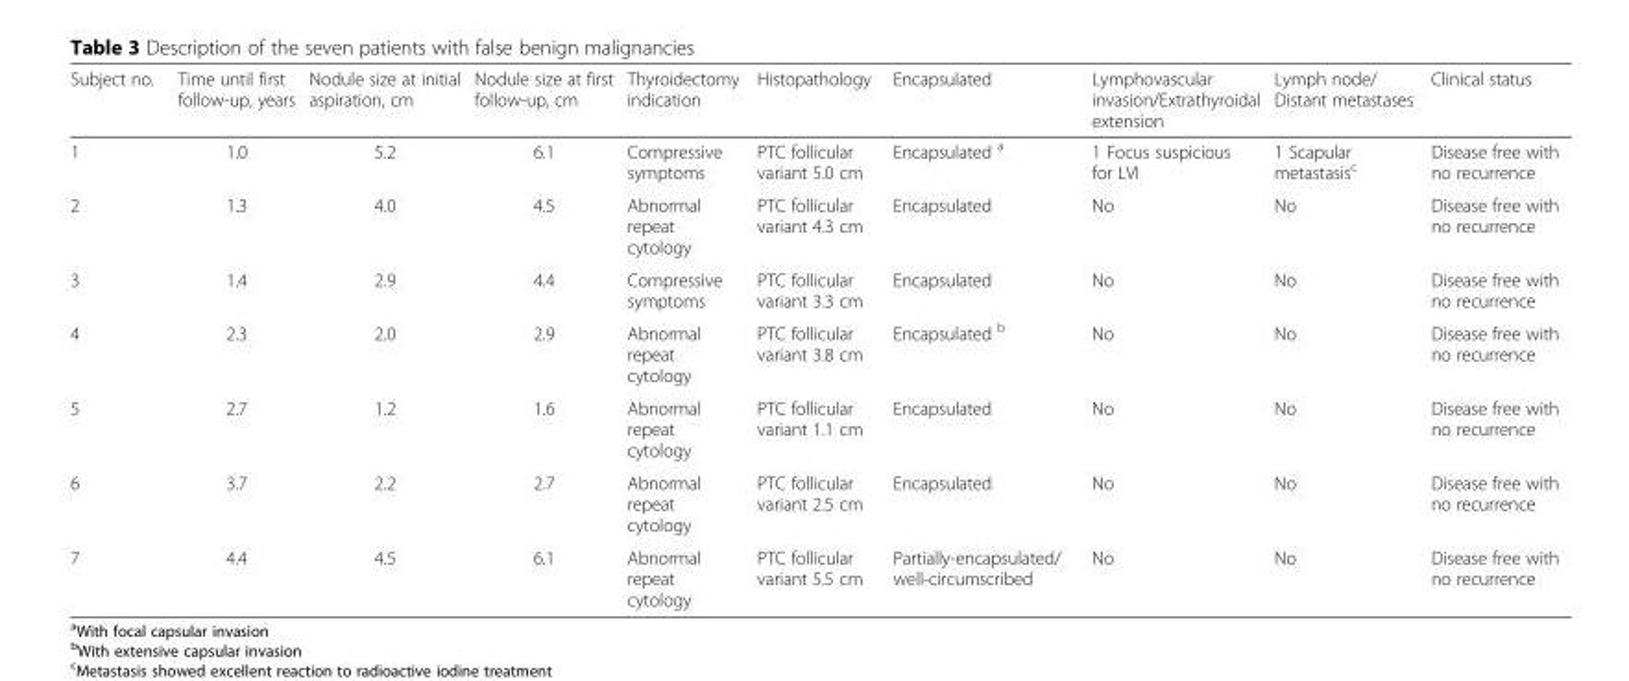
<table><thead><tr><td>Subject no.</td><td>Time until first follow-up, years</td><td>Nodule size at initial aspiration, cm</td><td>Nodule size at first follow-up, cm</td><td>Thyroidectomy indication</td><td>Histopathology</td><td>Encapsulated</td><td>Lymphovascular invasion/Extrathyroidal extension</td><td>Lymph node/ Distant metastases</td><td>Clinical status</td></tr></thead><tbody><tr><td>1</td><td>1.0</td><td>5.2</td><td>6.1</td><td>Compressive symptoms</td><td>PTC follicular variant 5.0 cm</td><td>Encapsulated <sup>a</sup></td><td>1 Focus suspicious for LVI</td><td>1 Scapular metastasis<sup>c</sup></td><td>Disease free with no recurrence</td></tr><tr><td>2</td><td>1.3</td><td>4.0</td><td>4.5</td><td>Abnormal repeat cytology</td><td>PTC follicular variant 4.3 cm</td><td>Encapsulated</td><td>No</td><td>No</td><td>Disease free with no recurrence</td></tr><tr><td>3</td><td>1.4</td><td>2.9</td><td>4.4</td><td>Compressive symptoms</td><td>PTC follicular variant 3.3 cm</td><td>Encapsulated</td><td>No</td><td>No</td><td>Disease free with no recurrence</td></tr><tr><td>4</td><td>2.3</td><td>2.0</td><td>2.9</td><td>Abnormal repeat cytology</td><td>PTC follicular variant 3.8 cm</td><td>Encapsulated <sup>b</sup></td><td>No</td><td>No</td><td>Disease free with no recurrence</td></tr><tr><td>5</td><td>2.7</td><td>1.2</td><td>1.6</td><td>Abnormal repeat cytology</td><td>PTC follicular variant 1.1 cm</td><td>Encapsulated</td><td>No</td><td>No</td><td>Disease free with no recurrence</td></tr><tr><td>6</td><td>3.7</td><td>2.2</td><td>2.7</td><td>Abnormal repeat cytology</td><td>PTC follicular variant 2.5 cm</td><td>Encapsulated</td><td>No</td><td>No</td><td>Disease free with no recurrence</td></tr><tr><td>7</td><td>4.4</td><td>4.5</td><td>6.1</td><td>Abnormal repeat cytology</td><td>PTC follicular variant 5.5 cm</td><td>Partially-encapsulated/ well-circumscribed</td><td>No</td><td>No</td><td>Disease free with no recurrence</td></tr></tbody></table>